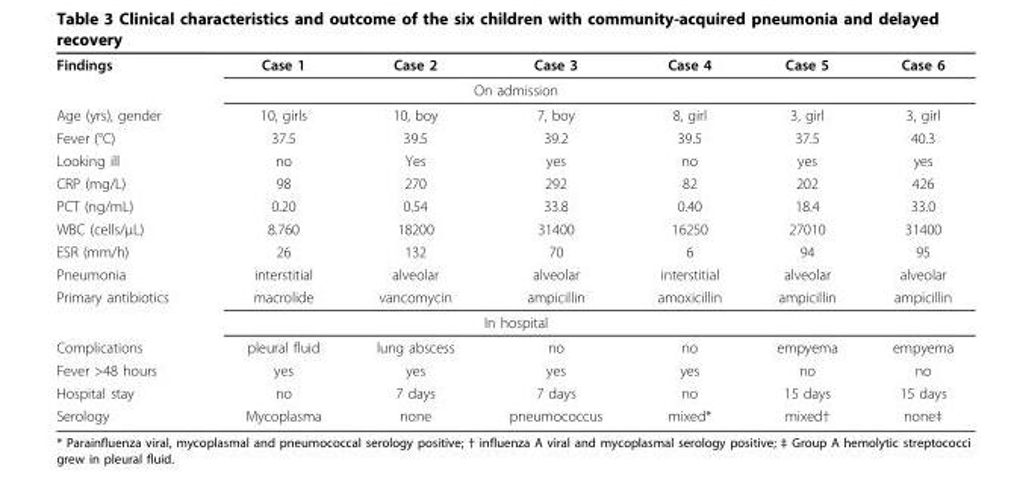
<table><tbody><tr><td>Findings</td><td>Case 1</td><td>Case 2</td><td>Case 3</td><td>Case 4</td><td>Case 5</td><td>Case 6</td></tr><tr><td colspan="7">On admission</td></tr><tr><td>Age (yrs), gender</td><td>10, girls</td><td>10, boy</td><td>7, boy</td><td>8, girl</td><td>3, girl</td><td>3, girl</td></tr><tr><td>Fever (°C)</td><td>37.5</td><td>39.5</td><td>39.2</td><td>39.5</td><td>37.5</td><td>40.3</td></tr><tr><td>Looking ill</td><td>no</td><td>Yes</td><td>yes</td><td>no</td><td>yes</td><td>yes</td></tr><tr><td>CRP (mg/L)</td><td>98</td><td>270</td><td>292</td><td>82</td><td>202</td><td>426</td></tr><tr><td>PCT (ng/mL)</td><td>0.20</td><td>0.54</td><td>33.8</td><td>0.40</td><td>18.4</td><td>33.0</td></tr><tr><td>WBC (cells/μL)</td><td>8.760</td><td>18200</td><td>31400</td><td>16250</td><td>27010</td><td>31400</td></tr><tr><td>ESR (mm/h)</td><td>26</td><td>132</td><td>70</td><td>6</td><td>94</td><td>95</td></tr><tr><td>Pneumonia</td><td>interstitial</td><td>alveolar</td><td>alveolar</td><td>interstitial</td><td>alveolar</td><td>alveolar</td></tr><tr><td>Primary antibiotics</td><td>macrolide</td><td>vancomycin</td><td>ampicillin</td><td>amoxicillin</td><td>ampicillin</td><td>ampicillin</td></tr><tr><td colspan="7">In hospital</td></tr><tr><td>Complications</td><td>pleural fluid</td><td>lung abscess</td><td>no</td><td>no</td><td>empyema</td><td>empyema</td></tr><tr><td>Fever &gt;48 hours</td><td>yes</td><td>yes</td><td>yes</td><td>yes</td><td>no</td><td>no</td></tr><tr><td>Hospital stay</td><td>no</td><td>7 days</td><td>7 days</td><td>no</td><td>15 days</td><td>15 days</td></tr><tr><td>Serology</td><td>Mycoplasma</td><td>none</td><td>pneumococcus</td><td>mixed*</td><td>mixed†</td><td>none‡</td></tr></tbody></table>